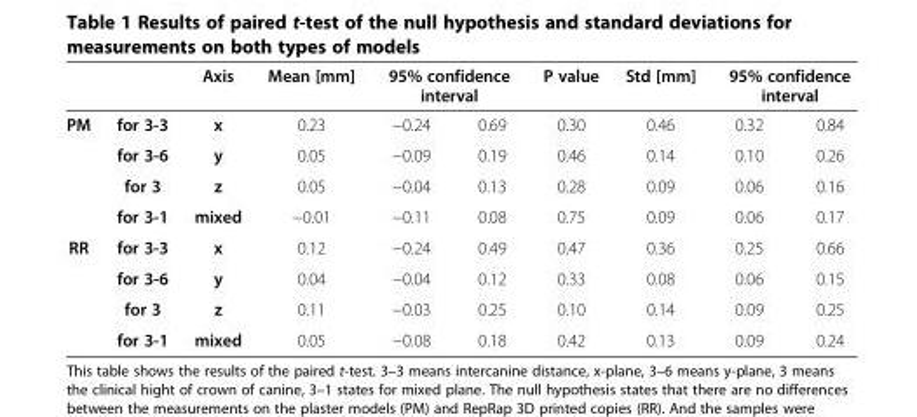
<table><thead><tr><td rowspan="2">PM</td><td rowspan="2">for 3-3</td><td rowspan="2">Axis x</td><td rowspan="2">Mean [mm] 0.23</td><td colspan="2">95% confidence interval</td><td rowspan="2">P value 0.30</td><td rowspan="2">Std [mm] 0.46</td><td colspan="2">95% confidence interval</td></tr><tr><td>−0.24</td><td>0.69</td><td>0.32</td><td>0.84</td></tr></thead><tbody><tr><td></td><td>for 3-6</td><td>y</td><td>0.05</td><td>−0.09</td><td>0.19</td><td>0.46</td><td>0.14</td><td>0.10</td><td>0.26</td></tr><tr><td></td><td>for 3</td><td>z</td><td>0.05</td><td>−0.04</td><td>0.13</td><td>0.28</td><td>0.09</td><td>0.06</td><td>0.16</td></tr><tr><td></td><td>for 3-1</td><td>mixed</td><td>−0.01</td><td>−0.11</td><td>0.08</td><td>0.75</td><td>0.09</td><td>0.06</td><td>0.17</td></tr><tr><td rowspan="4">RR</td><td>for 3-3</td><td>x</td><td>0.12</td><td>−0.24</td><td>0.49</td><td>0.47</td><td>0.36</td><td>0.25</td><td>0.66</td></tr><tr><td>for 3-6</td><td>y</td><td>0.04</td><td>−0.04</td><td>0.12</td><td>0.33</td><td>0.08</td><td>0.06</td><td>0.15</td></tr><tr><td>for 3</td><td>z</td><td>0.11</td><td>−0.03</td><td>0.25</td><td>0.10</td><td>0.14</td><td>0.09</td><td>0.25</td></tr><tr><td>for 3-1</td><td>mixed</td><td>0.05</td><td>−0.08</td><td>0.18</td><td>0.42</td><td>0.13</td><td>0.09</td><td>0.24</td></tr></tbody></table>